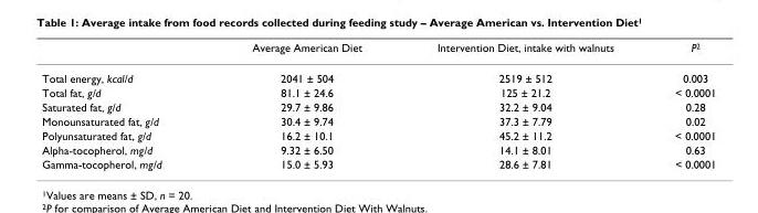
<table><thead><tr><td></td><td>Average American Diet</td><td>Intervention Diet, intake with walnuts</td><td>P<sup>2</sup></td></tr></thead><tbody><tr><td>Total energy, kcal/d</td><td>2041 ± 504</td><td>2519 ± 512</td><td>0.003</td></tr><tr><td>Total fat, g/d</td><td>81.1 ± 24.6</td><td>125 ± 21.2</td><td>&lt; 0.0001</td></tr><tr><td>Saturated fat, g/d</td><td>29.7 ± 9.86</td><td>32.2 ± 9.04</td><td>0.28</td></tr><tr><td>Monounsaturated fat, g/d</td><td>30.4 ± 9.74</td><td>37.3 ± 7.79</td><td>0.02</td></tr><tr><td>Polyunsaturated fat, g/d</td><td>16.2 ± 10.1</td><td>45.2 ± 11.2</td><td>&lt; 0.0001</td></tr><tr><td>Alpha-tocopherol, mg/d</td><td>9.32 ± 6.50</td><td>14.1 ± 8.01</td><td>0.63</td></tr><tr><td>Gamma-tocopherol, mg/d</td><td>15.0 ± 5.93</td><td>28.6 ± 7.81</td><td>&lt; 0.0001</td></tr></tbody></table>